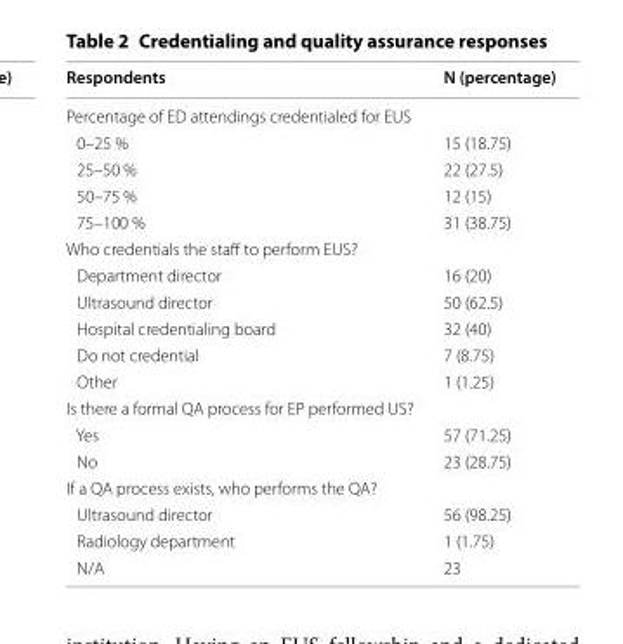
<table><thead><tr><td>Respondents</td><td>N (percentage)</td></tr></thead><tbody><tr><td colspan="2">Percentage of ED attendings credentialed for EUS</td></tr><tr><td>0–25 %</td><td>15 (18.75)</td></tr><tr><td>25–50 %</td><td>22 (27.5)</td></tr><tr><td>50–75 %</td><td>12 (15)</td></tr><tr><td>75–100 %</td><td>31 (38.75)</td></tr><tr><td colspan="2">Who credentials the staff to perform EUS?</td></tr><tr><td>Department director</td><td>16 (20)</td></tr><tr><td>Ultrasound director</td><td>50 (62.5)</td></tr><tr><td>Hospital credentialing board</td><td>32 (40)</td></tr><tr><td>Do not credential</td><td>7 (8.75)</td></tr><tr><td>Other</td><td>1 (1.25)</td></tr><tr><td colspan="2">Is there a formal QA process for EP performed US?</td></tr><tr><td>Yes</td><td>57 (71.25)</td></tr><tr><td>No</td><td>23 (28.75)</td></tr><tr><td colspan="2">If a QA process exists, who performs the QA?</td></tr><tr><td>Ultrasound director</td><td>56 (98.25)</td></tr><tr><td>Radiology department</td><td>1 (1.75)</td></tr><tr><td>N/A</td><td>23</td></tr></tbody></table>